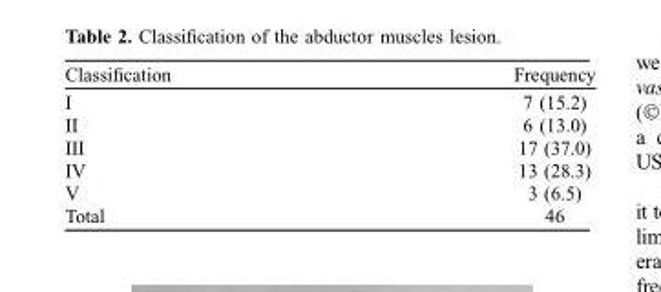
<table><thead><tr><td>Classification</td><td>Frequency</td></tr></thead><tbody><tr><td>I</td><td>7 (15.2)</td></tr><tr><td>II</td><td>6 (13.0)</td></tr><tr><td>III</td><td>17 (37.0)</td></tr><tr><td>IV</td><td>13 (28.3)</td></tr><tr><td>V</td><td>3 (6.5)</td></tr><tr><td>Total</td><td>46</td></tr></tbody></table>